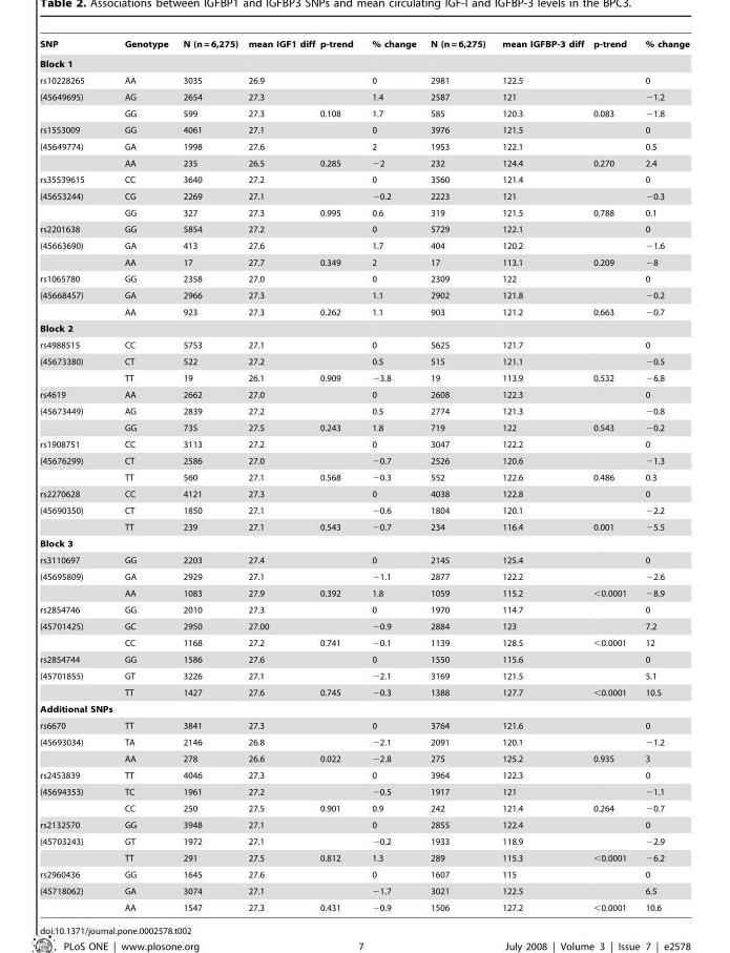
<table><thead><tr><td>SNP</td><td>Genotype</td><td>N (n = 6,275)</td><td>mean IGF1 diff</td><td>p-trend</td><td>% change</td><td>N (n = 6,275)</td><td>mean IGFBP-3 diff</td><td>p-trend</td><td>% change</td></tr></thead><tbody><tr><td colspan="10">Block 1</td></tr><tr><td>rs10228265</td><td>AA</td><td>3035</td><td>26.9</td><td></td><td>0</td><td>2981</td><td>122.5</td><td></td><td>0</td></tr><tr><td rowspan="2">(45649695)</td><td>AG</td><td>2654</td><td>27.3</td><td></td><td>1.4</td><td>2587</td><td>121</td><td></td><td>−1.2</td></tr><tr><td>GG</td><td>599</td><td>27.3</td><td>0.108</td><td>1.7</td><td>585</td><td>120.3</td><td>0.083</td><td>−1.8</td></tr><tr><td>rs1553009</td><td>GG</td><td>4061</td><td>27.1</td><td></td><td>0</td><td>3976</td><td>121.5</td><td></td><td>0</td></tr><tr><td rowspan="2">(45649774)</td><td>GA</td><td>1998</td><td>27.6</td><td></td><td>2</td><td>1953</td><td>122.1</td><td></td><td>0.5</td></tr><tr><td>AA</td><td>235</td><td>26.5</td><td>0.285</td><td>−2</td><td>232</td><td>124.4</td><td>0.270</td><td>2.4</td></tr><tr><td>rs35539615</td><td>CC</td><td>3640</td><td>27.2</td><td></td><td>0</td><td>3560</td><td>121.4</td><td></td><td>0</td></tr><tr><td rowspan="2">(45653244)</td><td>CG</td><td>2269</td><td>27.1</td><td></td><td>−0.2</td><td>2223</td><td>121</td><td></td><td>−0.3</td></tr><tr><td>GG</td><td>327</td><td>27.3</td><td>0.995</td><td>0.6</td><td>319</td><td>121.5</td><td>0.788</td><td>0.1</td></tr><tr><td>rs2201638</td><td>GG</td><td>5854</td><td>27.2</td><td></td><td>0</td><td>5729</td><td>122.1</td><td></td><td>0</td></tr><tr><td rowspan="2">(45663690)</td><td>GA</td><td>413</td><td>27.6</td><td></td><td>1.7</td><td>404</td><td>120.2</td><td></td><td>−1.6</td></tr><tr><td>AA</td><td>17</td><td>27.7</td><td>0.349</td><td>2</td><td>17</td><td>113.1</td><td>0.209</td><td>−8</td></tr><tr><td>rs1065780</td><td>GG</td><td>2358</td><td>27.0</td><td></td><td>0</td><td>2309</td><td>122</td><td></td><td>0</td></tr><tr><td rowspan="2">(45668457)</td><td>GA</td><td>2966</td><td>27.3</td><td></td><td>1.1</td><td>2902</td><td>121.8</td><td></td><td>−0.2</td></tr><tr><td>AA</td><td>923</td><td>27.3</td><td>0.262</td><td>1.1</td><td>903</td><td>121.2</td><td>0.663</td><td>−0.7</td></tr><tr><td colspan="10">Block 2</td></tr><tr><td>rs4988515</td><td>CC</td><td>5753</td><td>27.1</td><td></td><td>0</td><td>5625</td><td>121.7</td><td></td><td>0</td></tr><tr><td rowspan="2">(45673380)</td><td>CT</td><td>522</td><td>27.2</td><td></td><td>0.5</td><td>515</td><td>121.1</td><td></td><td>−0.5</td></tr><tr><td>TT</td><td>19</td><td>26.1</td><td>0.909</td><td>−3.8</td><td>19</td><td>113.9</td><td>0.532</td><td>−6.8</td></tr><tr><td>rs4619</td><td>AA</td><td>2662</td><td>27.0</td><td></td><td>0</td><td>2608</td><td>122.3</td><td></td><td>0</td></tr><tr><td rowspan="2">(45673449)</td><td>AG</td><td>2839</td><td>27.2</td><td></td><td>0.5</td><td>2774</td><td>121.3</td><td></td><td>−0.8</td></tr><tr><td>GG</td><td>735</td><td>27.5</td><td>0.243</td><td>1.8</td><td>719</td><td>122</td><td>0.543</td><td>−0.2</td></tr><tr><td>rs1908751</td><td>CC</td><td>3113</td><td>27.2</td><td></td><td>0</td><td>3047</td><td>122.2</td><td></td><td>0</td></tr><tr><td rowspan="2">(45676299)</td><td>CT</td><td>2586</td><td>27.0</td><td></td><td>−0.7</td><td>2526</td><td>120.6</td><td></td><td>−1.3</td></tr><tr><td>TT</td><td>560</td><td>27.1</td><td>0.568</td><td>−0.3</td><td>552</td><td>122.6</td><td>0.486</td><td>0.3</td></tr><tr><td>rs2270628</td><td>CC</td><td>4121</td><td>27.3</td><td></td><td>0</td><td>4038</td><td>122.8</td><td></td><td>0</td></tr><tr><td rowspan="2">(45690350)</td><td>CT</td><td>1850</td><td>27.1</td><td></td><td>−0.6</td><td>1804</td><td>120.1</td><td></td><td>−2.2</td></tr><tr><td>TT</td><td>239</td><td>27.1</td><td>0.543</td><td>−0.7</td><td>234</td><td>116.4</td><td>0.001</td><td>−5.5</td></tr><tr><td colspan="10">Block 3</td></tr><tr><td>rs3110697</td><td>GG</td><td>2203</td><td>27.4</td><td></td><td>0</td><td>2145</td><td>125.4</td><td></td><td>0</td></tr><tr><td rowspan="2">(45695809)</td><td>GA</td><td>2929</td><td>27.1</td><td></td><td>−1.1</td><td>2877</td><td>122.2</td><td></td><td>−2.6</td></tr><tr><td>AA</td><td>1083</td><td>27.9</td><td>0.392</td><td>1.8</td><td>1059</td><td>115.2</td><td>&lt;0.0001</td><td>−8.9</td></tr><tr><td>rs2854746</td><td>GG</td><td>2010</td><td>27.3</td><td></td><td>0</td><td>1970</td><td>114.7</td><td></td><td>0</td></tr><tr><td rowspan="2">(45701425)</td><td>GC</td><td>2950</td><td>27.00</td><td></td><td>−0.9</td><td>2884</td><td>123</td><td></td><td>7.2</td></tr><tr><td>CC</td><td>1168</td><td>27.2</td><td>0.741</td><td>−0.1</td><td>1139</td><td>128.5</td><td>&lt;0.0001</td><td>12</td></tr><tr><td>rs2854744</td><td>GG</td><td>1586</td><td>27.6</td><td></td><td>0</td><td>1550</td><td>115.6</td><td></td><td>0</td></tr><tr><td rowspan="2">(45701855)</td><td>GT</td><td>3226</td><td>27.1</td><td></td><td>−2.1</td><td>3169</td><td>121.5</td><td></td><td>5.1</td></tr><tr><td>TT</td><td>1427</td><td>27.6</td><td>0.745</td><td>−0.3</td><td>1388</td><td>127.7</td><td>&lt;0.0001</td><td>10.5</td></tr><tr><td colspan="10">Additional SNPs</td></tr><tr><td>rs6670</td><td>TT</td><td>3841</td><td>27.3</td><td></td><td>0</td><td>3764</td><td>121.6</td><td></td><td>0</td></tr><tr><td rowspan="2">(45693034)</td><td>TA</td><td>2146</td><td>26.8</td><td></td><td>−2.1</td><td>2091</td><td>120.1</td><td></td><td>−1.2</td></tr><tr><td>AA</td><td>278</td><td>26.6</td><td>0.022</td><td>−2.8</td><td>275</td><td>125.2</td><td>0.935</td><td>3</td></tr><tr><td>rs2453839</td><td>TT</td><td>4046</td><td>27.3</td><td></td><td>0</td><td>3964</td><td>122.3</td><td></td><td>0</td></tr><tr><td rowspan="2">(45694353)</td><td>TC</td><td>1961</td><td>27.2</td><td></td><td>−0.5</td><td>1917</td><td>121</td><td></td><td>−1.1</td></tr><tr><td>CC</td><td>250</td><td>27.5</td><td>0.901</td><td>0.9</td><td>242</td><td>121.4</td><td>0.264</td><td>−0.7</td></tr><tr><td>rs2132570</td><td>GG</td><td>3948</td><td>27.1</td><td></td><td>0</td><td>2855</td><td>122.4</td><td></td><td>0</td></tr><tr><td rowspan="2">(45703243)</td><td>GT</td><td>1972</td><td>27.1</td><td></td><td>−0.2</td><td>1933</td><td>118.9</td><td></td><td>−2.9</td></tr><tr><td>TT</td><td>291</td><td>27.5</td><td>0.812</td><td>1.3</td><td>289</td><td>115.3</td><td>&lt;0.0001</td><td>−6.2</td></tr><tr><td>rs2960436</td><td>GG</td><td>1645</td><td>27.6</td><td></td><td>0</td><td>1607</td><td>115</td><td></td><td>0</td></tr><tr><td rowspan="2">(45718062)</td><td>GA</td><td>3074</td><td>27.1</td><td></td><td>−1.7</td><td>3021</td><td>122.5</td><td></td><td>6.5</td></tr><tr><td>AA</td><td>1547</td><td>27.3</td><td>0.431</td><td>−0.9</td><td>1506</td><td>127.2</td><td>&lt;0.0001</td><td>10.6</td></tr></tbody></table>